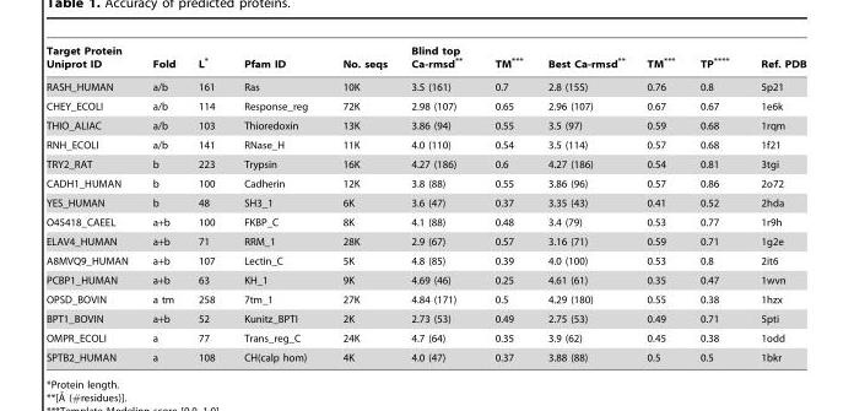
<table><thead><tr><td>Target Protein Uniprot ID</td><td>Fold</td><td>L*</td><td>Pfam ID</td><td>No. seqs</td><td>Blind top Ca-rmsd**</td><td>TM***</td><td>Best Ca-rmsd**</td><td>TM***</td><td>TP****</td><td>Ref. PDB</td></tr></thead><tbody><tr><td>RASH_HUMAN</td><td>a/b</td><td>161</td><td>Ras</td><td>10K</td><td>3.5 (161)</td><td>0.7</td><td>2.8 (155)</td><td>0.76</td><td>0.8</td><td>5p21</td></tr><tr><td>CHEY_ECOLI</td><td>a/b</td><td>114</td><td>Response_reg</td><td>72K</td><td>2.98 (107)</td><td>0.65</td><td>2.96 (107)</td><td>0.67</td><td>0.67</td><td>1e6k</td></tr><tr><td>THIO_ALIAC</td><td>a/b</td><td>103</td><td>Thioredoxin</td><td>13K</td><td>3.86 (94)</td><td>0.55</td><td>3.5 (97)</td><td>0.59</td><td>0.68</td><td>1rqm</td></tr><tr><td>RNH_ECOLI</td><td>a/b</td><td>141</td><td>RNase_H</td><td>11K</td><td>4.0 (110)</td><td>0.54</td><td>3.5 (114)</td><td>0.57</td><td>0.68</td><td>1f21</td></tr><tr><td>TRY2_RAT</td><td>b</td><td>223</td><td>Trypsin</td><td>16K</td><td>4.27 (186)</td><td>0.6</td><td>4.27 (186)</td><td>0.54</td><td>0.81</td><td>3tgi</td></tr><tr><td>CADH1_HUMAN</td><td>b</td><td>100</td><td>Cadherin</td><td>12K</td><td>3.8 (88)</td><td>0.55</td><td>3.86 (96)</td><td>0.57</td><td>0.86</td><td>2o72</td></tr><tr><td>YES_HUMAN</td><td>b</td><td>48</td><td>SH3_1</td><td>6K</td><td>3.6 (47)</td><td>0.37</td><td>3.35 (43)</td><td>0.41</td><td>0.52</td><td>2hda</td></tr><tr><td>O45418_CAEEL</td><td>a+b</td><td>100</td><td>FKBP_C</td><td>8K</td><td>4.1 (88)</td><td>0.48</td><td>3.4 (79)</td><td>0.53</td><td>0.77</td><td>1r9h</td></tr><tr><td>ELAV4_HUMAN</td><td>a+b</td><td>71</td><td>RRM_1</td><td>28K</td><td>2.9 (67)</td><td>0.57</td><td>3.16 (71)</td><td>0.59</td><td>0.71</td><td>1g2e</td></tr><tr><td>A8MVQ9_HUMAN</td><td>a+b</td><td>107</td><td>Lectin_C</td><td>5K</td><td>4.8 (85)</td><td>0.39</td><td>4.0 (100)</td><td>0.53</td><td>0.8</td><td>2it6</td></tr><tr><td>PCBP1_HUMAN</td><td>a+b</td><td>63</td><td>KH_1</td><td>9K</td><td>4.69 (46)</td><td>0.25</td><td>4.61 (61)</td><td>0.35</td><td>0.47</td><td>1wvn</td></tr><tr><td>OPSD_BOVIN</td><td>a tm</td><td>258</td><td>7tm_1</td><td>27K</td><td>4.84 (171)</td><td>0.5</td><td>4.29 (180)</td><td>0.55</td><td>0.38</td><td>1hzx</td></tr><tr><td>BPT1_BOVIN</td><td>a+b</td><td>52</td><td>Kunitz_BPTI</td><td>2K</td><td>2.73 (53)</td><td>0.49</td><td>2.75 (53)</td><td>0.49</td><td>0.71</td><td>5pti</td></tr><tr><td>OMPR_ECOLI</td><td>a</td><td>77</td><td>Trans_reg_C</td><td>24K</td><td>4.7 (64)</td><td>0.35</td><td>3.9 (62)</td><td>0.45</td><td>0.38</td><td>1odd</td></tr><tr><td>SPTB2_HUMAN</td><td>a</td><td>108</td><td>CH(calp hom)</td><td>4K</td><td>4.0 (47)</td><td>0.37</td><td>3.88 (88)</td><td>0.5</td><td>0.5</td><td>1bkr</td></tr></tbody></table>